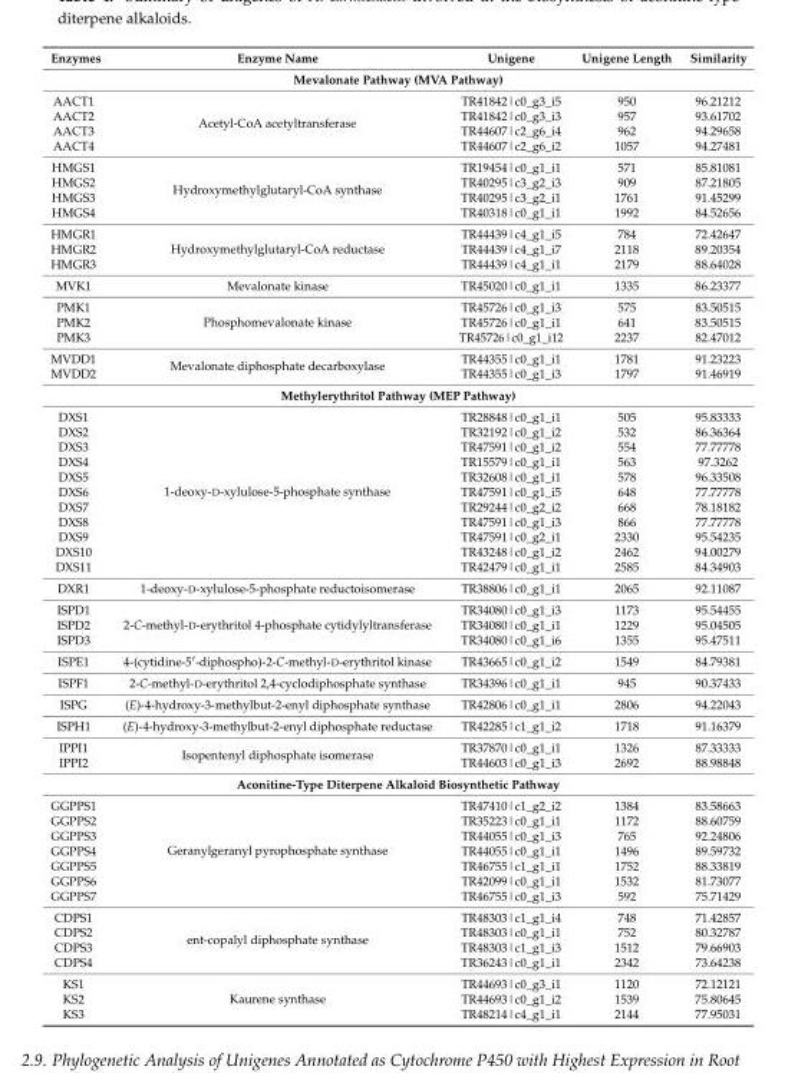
<table><thead><tr><td>Enzymes</td><td>Enzyme Name</td><td>Unigene</td><td>Unigene Length</td><td>Similarity</td></tr></thead><tbody><tr><td colspan="5">Mevalonate Pathway (MVA Pathway)</td></tr><tr><td>AACT1</td><td rowspan="4">Acetyl-CoA acetyltransferase</td><td>TR41842|c0_g3_i5</td><td>950</td><td>96.21212</td></tr><tr><td>AACT2</td><td>TR41842|c0_g3_i3</td><td>957</td><td>93.61702</td></tr><tr><td>AACT3</td><td>TR44607|c2_g6_i4</td><td>962</td><td>94.29658</td></tr><tr><td>AACT4</td><td>TR44607|c2_g6_i2</td><td>1057</td><td>94.27481</td></tr><tr><td>HMGS1</td><td rowspan="4">Hydroxymethylglutaryl-CoA synthase</td><td>TR19454|c0_g1_i1</td><td>571</td><td>85.81081</td></tr><tr><td>HMGS2</td><td>TR40295|c3_g2_i3</td><td>909</td><td>87.21805</td></tr><tr><td>HMGS3</td><td>TR40295|c3_g2_i1</td><td>1761</td><td>91.45299</td></tr><tr><td>HMGS4</td><td>TR40318|c0_g1_i1</td><td>1992</td><td>84.52656</td></tr><tr><td>HMGR1</td><td rowspan="3">Hydroxymethylglutaryl-CoA reductase</td><td>TR44439|c4_g1_i5</td><td>784</td><td>72.42647</td></tr><tr><td>HMGR2</td><td>TR44439|c4_g1_i7</td><td>2118</td><td>89.20354</td></tr><tr><td>HMGR3</td><td>TR44439|c4_g1_i1</td><td>2179</td><td>88.64028</td></tr><tr><td>MVK1</td><td>Mevalonate kinase</td><td>TR45020|c0_g1_i1</td><td>1335</td><td>86.23377</td></tr><tr><td>PMK1</td><td rowspan="3">Phosphomevalonate kinase</td><td>TR45726|c0_g1_i3</td><td>575</td><td>83.50515</td></tr><tr><td>PMK2</td><td>TR45726|c0_g1_i1</td><td>641</td><td>83.50515</td></tr><tr><td>PMK3</td><td>TR45726|c0_g1_i12</td><td>2237</td><td>82.47012</td></tr><tr><td>MVDD1</td><td rowspan="2">Mevalonate diphosphate decarboxylase</td><td>TR44355|c0_g1_i1</td><td>1781</td><td>91.23223</td></tr><tr><td>MVDD2</td><td>TR44355|c0_g1_i3</td><td>1797</td><td>91.46919</td></tr><tr><td colspan="5">Methylerythritol Pathway (MEP Pathway)</td></tr><tr><td>DXS1</td><td rowspan="11">1-deoxy-D-xylulose-5-phosphate synthase</td><td>TR28848|c0_g1_i1</td><td>505</td><td>95.83333</td></tr><tr><td>DXS2</td><td>TR32192|c0_g1_i2</td><td>532</td><td>86.36364</td></tr><tr><td>DXS3</td><td>TR47591|c0_g1_i2</td><td>554</td><td>77.77778</td></tr><tr><td>DXS4</td><td>TR15579|c0_g1_i1</td><td>563</td><td>97.3262</td></tr><tr><td>DXS5</td><td>TR32608|c0_g1_i1</td><td>578</td><td>96.33508</td></tr><tr><td>DXS6</td><td>TR47591|c0_g1_i5</td><td>648</td><td>77.77778</td></tr><tr><td>DXS7</td><td>TR29244|c0_g2_i2</td><td>668</td><td>78.18182</td></tr><tr><td>DXS8</td><td>TR47591|c0_g1_i3</td><td>866</td><td>77.77778</td></tr><tr><td>DXS9</td><td>TR47591|c0_g2_i1</td><td>2330</td><td>95.54235</td></tr><tr><td>DXS10</td><td>TR43248|c0_g1_i2</td><td>2462</td><td>94.00279</td></tr><tr><td>DXS11</td><td>TR42479|c0_g1_i1</td><td>2585</td><td>84.34903</td></tr><tr><td>DXR1</td><td>1-deoxy-D-xylulose-5-phosphate reductoisomerase</td><td>TR38806|c0_g1_i1</td><td>2065</td><td>92.11087</td></tr><tr><td>ISPD1</td><td rowspan="3">2-C-methyl-D-erythritol 4-phosphate cytidylyltransferase</td><td>TR34080|c0_g1_i3</td><td>1173</td><td>95.54455</td></tr><tr><td>ISPD2</td><td>TR34080|c0_g1_i1</td><td>1229</td><td>95.04505</td></tr><tr><td>ISPD3</td><td>TR34080|c0_g1_i6</td><td>1355</td><td>95.47511</td></tr><tr><td>ISPE1</td><td>4-(cytidine-5′-diphospho)-2-C-methyl-D-erythritol kinase</td><td>TR43665|c0_g1_i2</td><td>1549</td><td>84.79381</td></tr><tr><td>ISPF1</td><td>2-C-methyl-D-erythritol 2,4-cyclodiphosphate synthase</td><td>TR34396|c0_g1_i1</td><td>945</td><td>90.37433</td></tr><tr><td>ISPG</td><td>(E)-4-hydroxy-3-methylbut-2-enyl diphosphate synthase</td><td>TR42806|c0_g1_i1</td><td>2806</td><td>94.22043</td></tr><tr><td>ISPH1</td><td>(E)-4-hydroxy-3-methylbut-2-enyl diphosphate reductase</td><td>TR42285|c1_g1_i2</td><td>1718</td><td>91.16379</td></tr><tr><td>IPPI1</td><td rowspan="2">Isopentenyl diphosphate isomerase</td><td>TR37870|c0_g1_i1</td><td>1326</td><td>87.33333</td></tr><tr><td>IPPI2</td><td>TR44603|c0_g1_i3</td><td>2692</td><td>88.98848</td></tr><tr><td colspan="5">Aconitine-Type Diterpene Alkaloid Biosynthetic Pathway</td></tr><tr><td>GGPPS1</td><td rowspan="7">Geranylgeranyl pyrophosphate synthase</td><td>TR47410|c1_g2_i2</td><td>1384</td><td>83.58663</td></tr><tr><td>GGPPS2</td><td>TR35223|c0_g1_i1</td><td>1172</td><td>88.60759</td></tr><tr><td>GGPPS3</td><td>TR44055|c0_g1_i3</td><td>765</td><td>92.24806</td></tr><tr><td>GGPPS4</td><td>TR44055|c0_g1_i1</td><td>1496</td><td>89.59732</td></tr><tr><td>GGPPS5</td><td>TR46755|c1_g1_i1</td><td>1752</td><td>88.33819</td></tr><tr><td>GGPPS6</td><td>TR42099|c0_g1_i1</td><td>1532</td><td>81.73077</td></tr><tr><td>GGPPS7</td><td>TR46755|c0_g1_i3</td><td>592</td><td>75.71429</td></tr><tr><td>CDPS1</td><td rowspan="4">ent-copalyl diphosphate synthase</td><td>TR48303|c1_g1_i4</td><td>748</td><td>71.42857</td></tr><tr><td>CDPS2</td><td>TR48303|c0_g1_i1</td><td>752</td><td>80.32787</td></tr><tr><td>CDPS3</td><td>TR48303|c1_g1_i3</td><td>1512</td><td>79.66903</td></tr><tr><td>CDPS4</td><td>TR36243|c0_g1_i1</td><td>2342</td><td>73.64238</td></tr><tr><td>KS1</td><td rowspan="3">Kaurene synthase</td><td>TR44693|c0_g3_i1</td><td>1120</td><td>72.12121</td></tr><tr><td>KS2</td><td>TR44693|c0_g1_i2</td><td>1539</td><td>75.80645</td></tr><tr><td>KS3</td><td>TR48214|c4_g1_i1</td><td>2144</td><td>77.95031</td></tr></tbody></table>